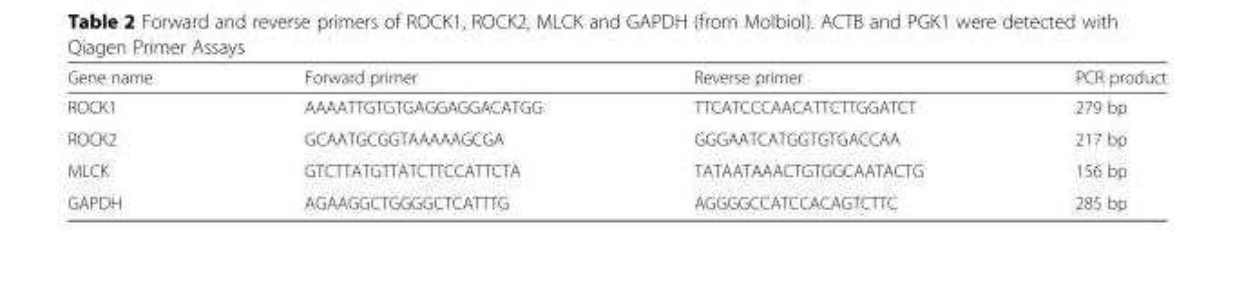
<table><thead><tr><td>Gene name</td><td>Forward primer</td><td>Reverse primer</td><td>PCR product</td></tr></thead><tbody><tr><td>ROCK1</td><td>AAAATTGTGTGAGGAGGACATGG</td><td>TTCATCCCAACATTCTTGGATCT</td><td>279 bp</td></tr><tr><td>ROCK2</td><td>GCAATGCGGTAAAAAGCGA</td><td>GGGAATCATGGTGTGACCAA</td><td>217 bp</td></tr><tr><td>MLCK</td><td>GTCTTATGTTATCTTCCATTCTA</td><td>TATAATAAACTGTGGCAATACTG</td><td>156 bp</td></tr><tr><td>GAPDH</td><td>AGAAGGCTGGGGCTCATTTG</td><td>AGGGGCCATCCACAGTCTTC</td><td>285 bp</td></tr></tbody></table>